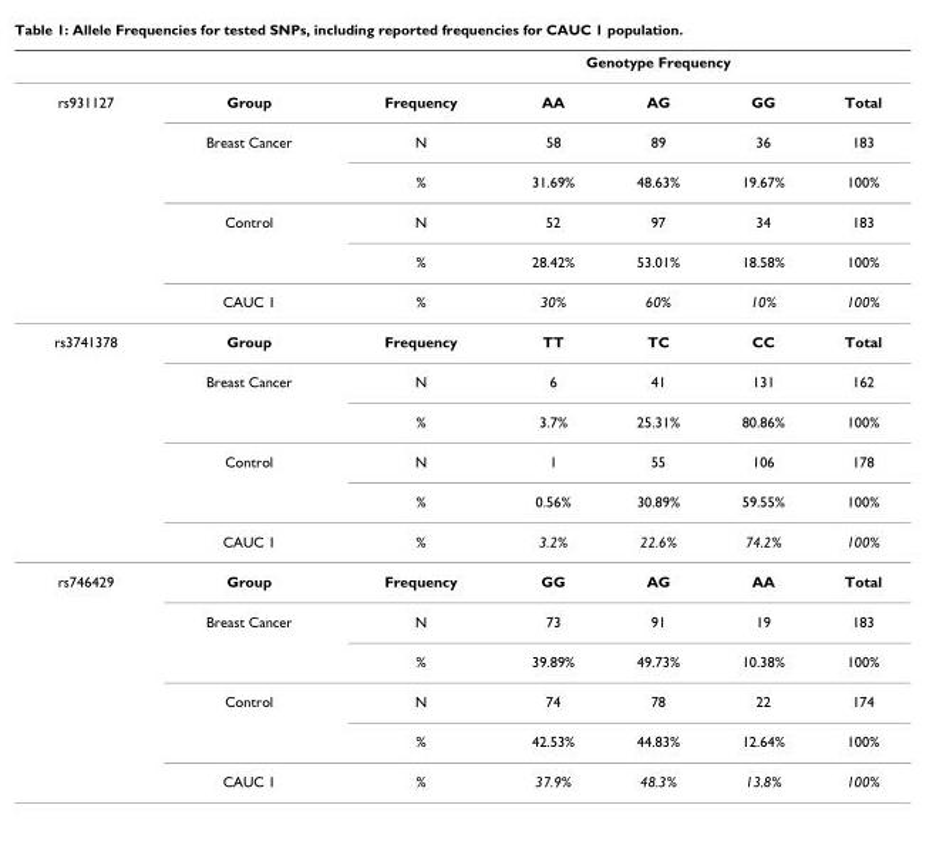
<table><thead><tr><td rowspan="2">rs931127</td><td rowspan="2">Group</td><td rowspan="2">Frequency</td><td colspan="3">Genotype Frequency</td><td rowspan="2">Total</td></tr><tr><td>AA</td><td>AG</td><td>GG</td></tr></thead><tbody><tr><td></td><td>Breast Cancer</td><td>N</td><td>58</td><td>89</td><td>36</td><td>183</td></tr><tr><td></td><td></td><td>%</td><td>31.69%</td><td>48.63%</td><td>19.67%</td><td>100%</td></tr><tr><td></td><td>Control</td><td>N</td><td>52</td><td>97</td><td>34</td><td>183</td></tr><tr><td></td><td></td><td>%</td><td>28.42%</td><td>53.01%</td><td>18.58%</td><td>100%</td></tr><tr><td></td><td>CAUC 1</td><td>%</td><td>30%</td><td>60%</td><td>10%</td><td>100%</td></tr><tr><td rowspan="6">rs3741378</td><td>Group</td><td>Frequency</td><td>TT</td><td>TC</td><td>CC</td><td>Total</td></tr><tr><td>Breast Cancer</td><td>N</td><td>6</td><td>41</td><td>131</td><td>162</td></tr><tr><td></td><td>%</td><td>3.7%</td><td>25.31%</td><td>80.86%</td><td>100%</td></tr><tr><td>Control</td><td>N</td><td>1</td><td>55</td><td>106</td><td>178</td></tr><tr><td></td><td>%</td><td>0.56%</td><td>30.89%</td><td>59.55%</td><td>100%</td></tr><tr><td>CAUC 1</td><td>%</td><td>3.2%</td><td>22.6%</td><td>74.2%</td><td>100%</td></tr><tr><td rowspan="6">rs746429</td><td>Group</td><td>Frequency</td><td>GG</td><td>AG</td><td>AA</td><td>Total</td></tr><tr><td>Breast Cancer</td><td>N</td><td>73</td><td>91</td><td>19</td><td>183</td></tr><tr><td></td><td>%</td><td>39.89%</td><td>49.73%</td><td>10.38%</td><td>100%</td></tr><tr><td>Control</td><td>N</td><td>74</td><td>78</td><td>22</td><td>174</td></tr><tr><td></td><td>%</td><td>42.53%</td><td>44.83%</td><td>12.64%</td><td>100%</td></tr><tr><td>CAUC 1</td><td>%</td><td>37.9%</td><td>48.3%</td><td>13.8%</td><td>100%</td></tr></tbody></table>